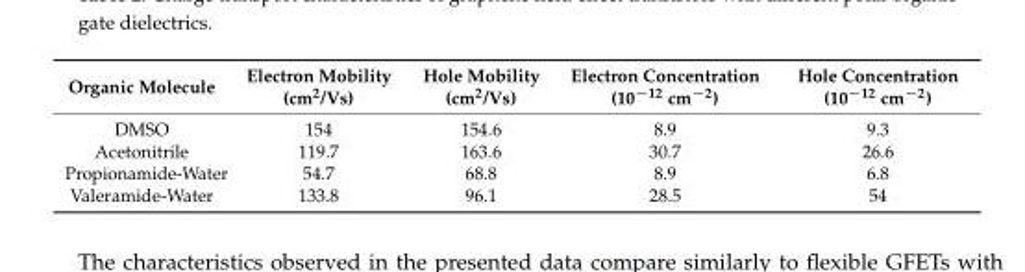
<table><thead><tr><td>Organic Molecule</td><td>Electron Mobility (cm<sup>2</sup>/Vs)</td><td>Hole Mobility (cm<sup>2</sup>/Vs)</td><td>Electron Concentration (10<sup>−12</sup> cm<sup>−2</sup>)</td><td>Hole Concentration (10<sup>−12</sup> cm<sup>−2</sup>)</td></tr></thead><tbody><tr><td>DMSO</td><td>154</td><td>154.6</td><td>8.9</td><td>9.3</td></tr><tr><td>Acetonitrile</td><td>119.7</td><td>163.6</td><td>30.7</td><td>26.6</td></tr><tr><td>Propionamide-Water</td><td>54.7</td><td>68.8</td><td>8.9</td><td>6.8</td></tr><tr><td>Valeramide-Water</td><td>133.8</td><td>96.1</td><td>28.5</td><td>54</td></tr></tbody></table>